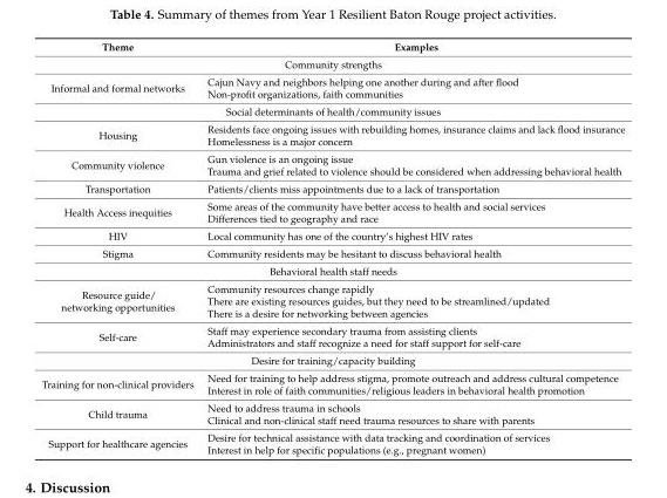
<table><thead><tr><td>Theme</td><td>Examples</td></tr></thead><tbody><tr><td colspan="2">Community strengths</td></tr><tr><td>Informal and formal networks</td><td>Cajun Navy and neighbors helping one another during and after flood Non-profit organizations, faith communities</td></tr><tr><td colspan="2">Social determinants of health/community issues</td></tr><tr><td>Housing</td><td>Residents face ongoing issues with rebuilding homes, insurance claims and lack flood insurance Homelessness is a major concern</td></tr><tr><td>Community violence</td><td>Gun violence is an ongoing issue Trauma and grief related to violence should be considered when addressing behavioral health</td></tr><tr><td>Transportation</td><td>Patients/clients miss appointments due to a lack of transportation</td></tr><tr><td>Health Access inequities</td><td>Some areas of the community have better access to health and social services Differences tied to geography and race</td></tr><tr><td>HIV</td><td>Local community has one of the country’s highest HIV rates</td></tr><tr><td>Stigma</td><td>Community residents may be hesitant to discuss behavioral health</td></tr><tr><td colspan="2">Behavioral health staff needs</td></tr><tr><td>Resource guide/ networking opportunities</td><td>Community resources change rapidly There are existing resources guides, but they need to be streamlined/updated There is a desire for networking between agencies</td></tr><tr><td>Self-care</td><td>Staff may experience secondary trauma from assisting clients Administrators and staff recognize a need for staff support for self-care</td></tr><tr><td colspan="2">Desire for training/capacity building</td></tr><tr><td>Training for non-clinical providers</td><td>Need for training to help address stigma, promote outreach and address cultural competence Interest in role of faith communities/religious leaders in behavioral health promotion</td></tr><tr><td>Child trauma</td><td>Need to address trauma in schools Clinical and non-clinical staff need trauma resources to share with parents</td></tr><tr><td>Support for healthcare agencies</td><td>Desire for technical assistance with data tracking and coordination of services Interest in help for specific populations (e.g., pregnant women)</td></tr></tbody></table>